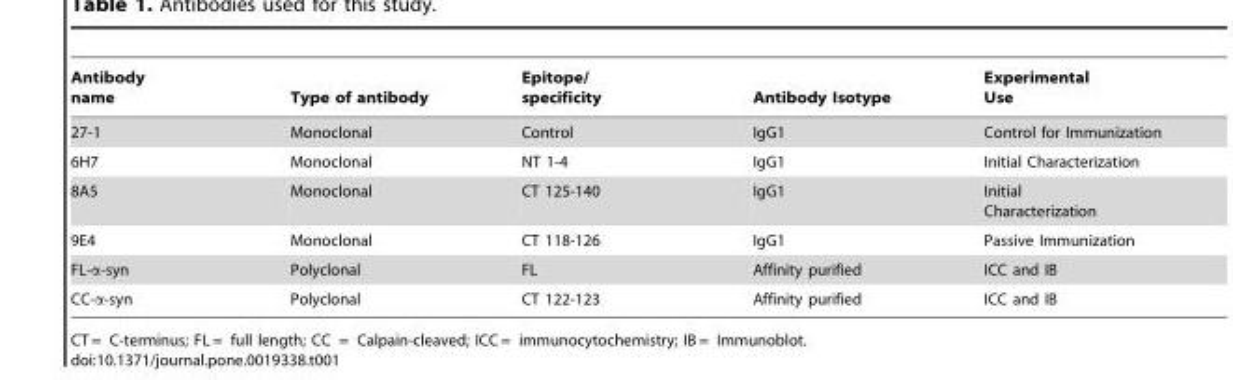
<table><thead><tr><td>Antibody name</td><td>Type of antibody</td><td>Epitope/ specificity</td><td>Antibody Isotype</td><td>Experimental Use</td></tr></thead><tbody><tr><td>27-1</td><td>Monoclonal</td><td>Control</td><td>IgG1</td><td>Control for Immunization</td></tr><tr><td>6H7</td><td>Monoclonal</td><td>NT 1-4</td><td>IgG1</td><td>Initial Characterization</td></tr><tr><td>8A5</td><td>Monoclonal</td><td>CT 125-140</td><td>IgG1</td><td>Initial Characterization</td></tr><tr><td>9E4</td><td>Monoclonal</td><td>CT 118-126</td><td>IgG1</td><td>Passive Immunization</td></tr><tr><td>FL-α-syn</td><td>Polyclonal</td><td>FL</td><td>Affinity purified</td><td>ICC and IB</td></tr><tr><td>CC-α-syn</td><td>Polyclonal</td><td>CT 122-123</td><td>Affinity purified</td><td>ICC and IB</td></tr></tbody></table>